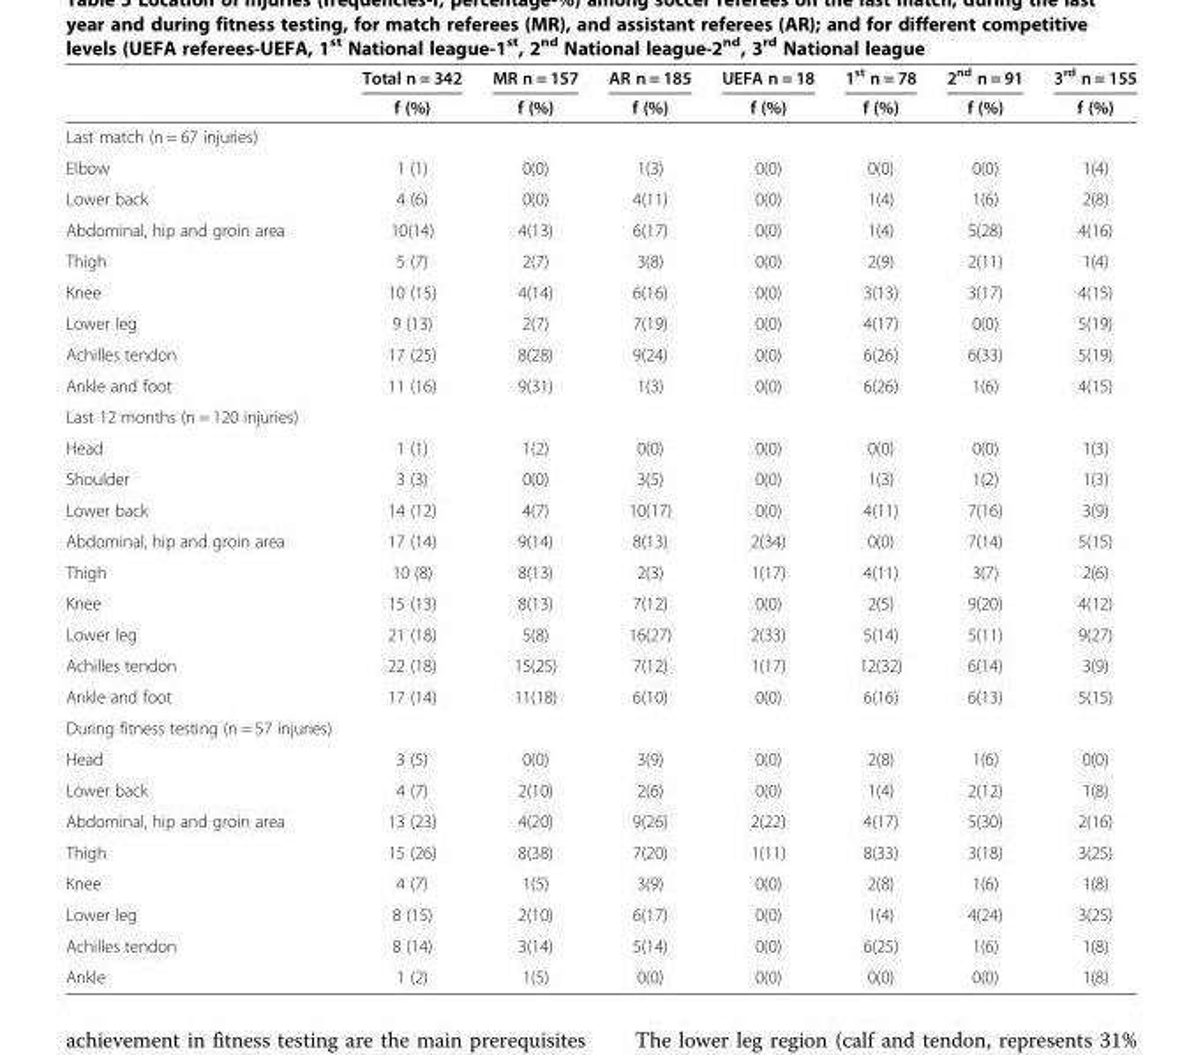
<table><thead><tr><td rowspan="2"></td><td rowspan="2">Total n = 342 f (%)</td><td rowspan="2">MR n = 157 f (%)</td><td rowspan="2">AR n = 185 f (%)</td><td rowspan="2">UEFA n = 18 f (%)</td><td rowspan="2">1<sup>st</sup> n = 78 f (%)</td><td rowspan="2">2<sup>nd</sup> n = 91 f (%)</td><td rowspan="2">3<sup>rd</sup> n = 155 f (%)</td></tr><tr></tr></thead><tbody><tr><td colspan="8">Last match (n = 67 injuries)</td></tr><tr><td>Elbow</td><td>1 (1)</td><td>0(0)</td><td>1(3)</td><td>0(0)</td><td>0(0)</td><td>0(0)</td><td>1(4)</td></tr><tr><td>Lower back</td><td>4 (6)</td><td>0(0)</td><td>4(11)</td><td>0(0)</td><td>1(4)</td><td>1(6)</td><td>2(8)</td></tr><tr><td>Abdominal, hip and groin area</td><td>10(14)</td><td>4(13)</td><td>6(17)</td><td>0(0)</td><td>1(4)</td><td>5(28)</td><td>4(16)</td></tr><tr><td>Thigh</td><td>5 (7)</td><td>2(7)</td><td>3(8)</td><td>0(0)</td><td>2(9)</td><td>2(11)</td><td>1(4)</td></tr><tr><td>Knee</td><td>10 (15)</td><td>4(14)</td><td>6(16)</td><td>0(0)</td><td>3(13)</td><td>3(17)</td><td>4(15)</td></tr><tr><td>Lower leg</td><td>9 (13)</td><td>2(7)</td><td>7(19)</td><td>0(0)</td><td>4(17)</td><td>0(0)</td><td>5(19)</td></tr><tr><td>Achilles tendon</td><td>17 (25)</td><td>8(28)</td><td>9(24)</td><td>0(0)</td><td>6(26)</td><td>6(33)</td><td>5(19)</td></tr><tr><td>Ankle and foot</td><td>11 (16)</td><td>9(31)</td><td>1(3)</td><td>0(0)</td><td>6(26)</td><td>1(6)</td><td>4(15)</td></tr><tr><td colspan="8">Last 12 months (n = 120 injuries)</td></tr><tr><td>Head</td><td>1 (1)</td><td>1(2)</td><td>0(0)</td><td>0(0)</td><td>0(0)</td><td>0(0)</td><td>1(3)</td></tr><tr><td>Shoulder</td><td>3 (3)</td><td>0(0)</td><td>3(5)</td><td>0(0)</td><td>1(3)</td><td>1(2)</td><td>1(3)</td></tr><tr><td>Lower back</td><td>14 (12)</td><td>4(7)</td><td>10(17)</td><td>0(0)</td><td>4(11)</td><td>7(16)</td><td>3(9)</td></tr><tr><td>Abdominal, hip and groin area</td><td>17 (14)</td><td>9(14)</td><td>8(13)</td><td>2(34)</td><td>0(0)</td><td>7(14)</td><td>5(15)</td></tr><tr><td>Thigh</td><td>10 (8)</td><td>8(13)</td><td>2(3)</td><td>1(17)</td><td>4(11)</td><td>3(7)</td><td>2(6)</td></tr><tr><td>Knee</td><td>15 (13)</td><td>8(13)</td><td>7(12)</td><td>0(0)</td><td>2(5)</td><td>9(20)</td><td>4(12)</td></tr><tr><td>Lower leg</td><td>21 (18)</td><td>5(8)</td><td>16(27)</td><td>2(33)</td><td>5(14)</td><td>5(11)</td><td>9(27)</td></tr><tr><td>Achilles tendon</td><td>22 (18)</td><td>15(25)</td><td>7(12)</td><td>1(17)</td><td>12(32)</td><td>6(14)</td><td>3(9)</td></tr><tr><td>Ankle and foot</td><td>17 (14)</td><td>11(18)</td><td>6(10)</td><td>0(0)</td><td>6(16)</td><td>6(13)</td><td>5(15)</td></tr><tr><td colspan="8">During fitness testing (n = 57 injuries)</td></tr><tr><td>Head</td><td>3 (5)</td><td>0(0)</td><td>3(9)</td><td>0(0)</td><td>2(8)</td><td>1(6)</td><td>0(0)</td></tr><tr><td>Lower back</td><td>4 (7)</td><td>2(10)</td><td>2(6)</td><td>0(0)</td><td>1(4)</td><td>2(12)</td><td>1(8)</td></tr><tr><td>Abdominal, hip and groin area</td><td>13 (23)</td><td>4(20)</td><td>9(26)</td><td>2(22)</td><td>4(17)</td><td>5(30)</td><td>2(16)</td></tr><tr><td>Thigh</td><td>15 (26)</td><td>8(38)</td><td>7(20)</td><td>1(11)</td><td>8(33)</td><td>3(18)</td><td>3(25)</td></tr><tr><td>Knee</td><td>4 (7)</td><td>1(5)</td><td>3(9)</td><td>0(0)</td><td>2(8)</td><td>1(6)</td><td>1(8)</td></tr><tr><td>Lower leg</td><td>8 (15)</td><td>2(10)</td><td>6(17)</td><td>0(0)</td><td>1(4)</td><td>4(24)</td><td>3(25)</td></tr><tr><td>Achilles tendon</td><td>8 (14)</td><td>3(14)</td><td>5(14)</td><td>0(0)</td><td>6(25)</td><td>1(6)</td><td>1(8)</td></tr><tr><td>Ankle</td><td>1 (2)</td><td>1(5)</td><td>0(0)</td><td>0(0)</td><td>0(0)</td><td>0(0)</td><td>1(8)</td></tr></tbody></table>